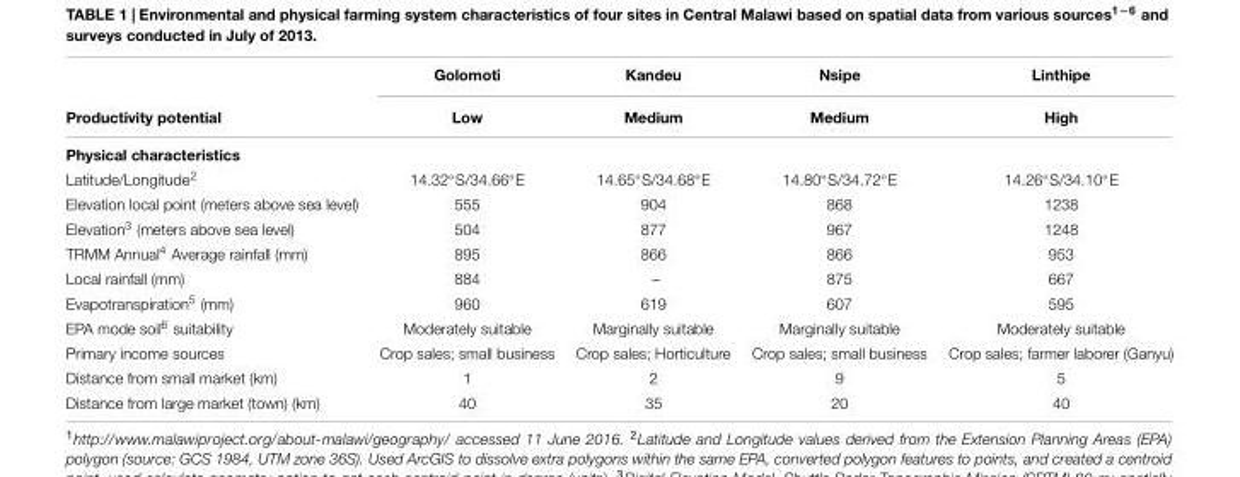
<table><thead><tr><td rowspan="2">Productivity potential</td><td rowspan="2">Golomoti Low</td><td rowspan="2">Kandeu Medium</td><td rowspan="2">Nsipe Medium</td><td rowspan="2">Linthipe High</td></tr><tr></tr></thead><tbody><tr><td colspan="5">Physical characteristics</td></tr><tr><td>Latitude/Longitude<sup>2</sup></td><td>14.32◦S/34.66◦E</td><td>14.65◦S/34.68◦E</td><td>14.80◦S/34.72◦E</td><td>14.26◦S/34.10◦E</td></tr><tr><td>Elevation local point (meters above sea level)</td><td>555</td><td>904</td><td>868</td><td>1238</td></tr><tr><td>Elevation<sup>3</sup> (meters above sea level)</td><td>504</td><td>877</td><td>967</td><td>1248</td></tr><tr><td>TRMM Annual<sup>4</sup> Average rainfall (mm)</td><td>895</td><td>866</td><td>866</td><td>953</td></tr><tr><td>Local rainfall (mm)</td><td>884</td><td>–</td><td>875</td><td>667</td></tr><tr><td>Evapotranspiration<sup>5</sup> (mm)</td><td>960</td><td>619</td><td>607</td><td>595</td></tr><tr><td>EPA mode soil<sup>6</sup> suitability</td><td>Moderately suitable</td><td>Marginally suitable</td><td>Marginally suitable</td><td>Moderately suitable</td></tr><tr><td>Primary income sources</td><td>Crop sales; small business</td><td>Crop sales; Horticulture</td><td>Crop sales; small business</td><td>Crop sales; farmer laborer (Ganyu)</td></tr><tr><td>Distance from small market (km)</td><td>1</td><td>2</td><td>9</td><td>5</td></tr><tr><td>Distance from large market (town) (km)</td><td>40</td><td>35</td><td>20</td><td>40</td></tr></tbody></table>